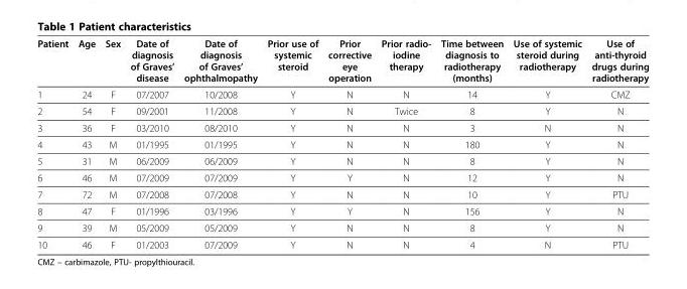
<table><thead><tr><td>Patient</td><td>Age</td><td>Sex</td><td>Date of diagnosis of Graves’ disease</td><td>Date of diagnosis of Graves’ ophthalmopathy</td><td>Prior use of systemic steroid</td><td>Prior corrective eye operation</td><td>Prior radio- iodine therapy</td><td>Time between diagnosis to radiotherapy (months)</td><td>Use of systemic steroid during radiotherapy</td><td>Use of anti-thyroid drugs during radiotherapy</td></tr></thead><tbody><tr><td>1</td><td>24</td><td>F</td><td>07/2007</td><td>10/2008</td><td>Y</td><td>N</td><td>N</td><td>14</td><td>Y</td><td>CMZ</td></tr><tr><td>2</td><td>54</td><td>F</td><td>09/2001</td><td>11/2008</td><td>Y</td><td>N</td><td>Twice</td><td>8</td><td>Y</td><td>N</td></tr><tr><td>3</td><td>36</td><td>F</td><td>03/2010</td><td>08/2010</td><td>Y</td><td>N</td><td>N</td><td>3</td><td>N</td><td>N</td></tr><tr><td>4</td><td>43</td><td>M</td><td>01/1995</td><td>01/1995</td><td>Y</td><td>N</td><td>N</td><td>180</td><td>Y</td><td>N</td></tr><tr><td>5</td><td>31</td><td>M</td><td>06/2009</td><td>06/2009</td><td>Y</td><td>N</td><td>N</td><td>8</td><td>Y</td><td>N</td></tr><tr><td>6</td><td>46</td><td>M</td><td>07/2009</td><td>07/2009</td><td>Y</td><td>Y</td><td>N</td><td>12</td><td>Y</td><td>N</td></tr><tr><td>7</td><td>72</td><td>M</td><td>07/2008</td><td>07/2008</td><td>Y</td><td>N</td><td>N</td><td>10</td><td>Y</td><td>PTU</td></tr><tr><td>8</td><td>47</td><td>F</td><td>01/1996</td><td>03/1996</td><td>Y</td><td>Y</td><td>N</td><td>156</td><td>Y</td><td>N</td></tr><tr><td>9</td><td>39</td><td>M</td><td>05/2009</td><td>05/2009</td><td>Y</td><td>N</td><td>N</td><td>8</td><td>Y</td><td>N</td></tr><tr><td>10</td><td>46</td><td>F</td><td>01/2003</td><td>07/2009</td><td>Y</td><td>N</td><td>N</td><td>4</td><td>N</td><td>PTU</td></tr></tbody></table>